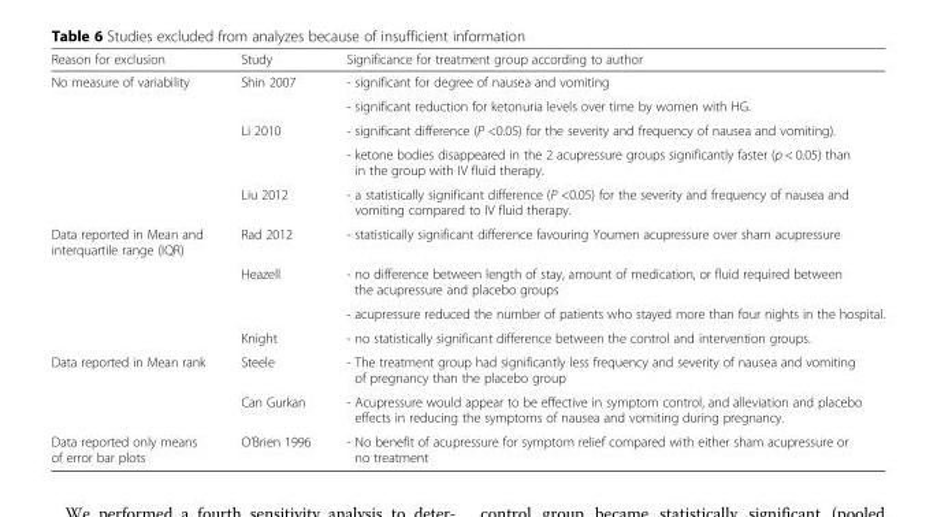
<table><thead><tr><td>Reason for exclusion</td><td>Study</td><td>Significance for treatment group according to author</td></tr></thead><tbody><tr><td rowspan="5">No measure of variability</td><td rowspan="2">Shin 2007</td><td>- significant for degree of nausea and vomiting</td></tr><tr><td>- significant reduction for ketonuria levels over time by women with HG.</td></tr><tr><td rowspan="2">Li 2010</td><td>- significant difference (P &lt;0.05) for the severity and frequency of nausea and vomiting).</td></tr><tr><td>- ketone bodies disappeared in the 2 acupressure groups significantly faster (p &lt; 0.05) than in the group with IV fluid therapy.</td></tr><tr><td>Liu 2012</td><td>- a statistically significant difference (P &lt;0.05) for the severity and frequency of nausea and vomiting compared to IV fluid therapy.</td></tr><tr><td rowspan="4">Data reported in Mean and interquartile range (IQR)</td><td>Rad 2012</td><td>- statistically significant difference favouring Youmen acupressure over sham acupressure</td></tr><tr><td rowspan="2">Heazell</td><td>- no difference between length of stay, amount of medication, or fluid required between the acupressure and placebo groups</td></tr><tr><td>- acupressure reduced the number of patients who stayed more than four nights in the hospital.</td></tr><tr><td>Knight</td><td>- no statistically significant difference between the control and intervention groups.</td></tr><tr><td rowspan="2">Data reported in Mean rank</td><td>Steele</td><td>- The treatment group had significantly less frequency and severity of nausea and vomiting of pregnancy than the placebo group</td></tr><tr><td>Can Gurkan</td><td>- Acupressure would appear to be effective in symptom control, and alleviation and placebo effects in reducing the symptoms of nausea and vomiting during pregnancy.</td></tr><tr><td>Data reported only means of error bar plots</td><td>O’Brien 1996</td><td>- No benefit of acupressure for symptom relief compared with either sham acupressure or no treatment</td></tr></tbody></table>